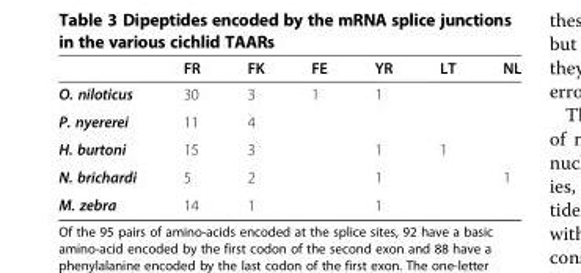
<table><thead><tr><td></td><td>FR</td><td>FK</td><td>FE</td><td>YR</td><td>LT</td><td>NL</td></tr></thead><tbody><tr><td>O. niloticus</td><td>30</td><td>3</td><td>1</td><td>1</td><td></td><td></td></tr><tr><td>P. nyererei</td><td>11</td><td>4</td><td></td><td></td><td></td><td></td></tr><tr><td>H. burtoni</td><td>15</td><td>3</td><td></td><td>1</td><td>1</td><td></td></tr><tr><td>N. brichardi</td><td>5</td><td>2</td><td></td><td>1</td><td></td><td>1</td></tr><tr><td>M. zebra</td><td>14</td><td>1</td><td></td><td>1</td><td></td><td></td></tr></tbody></table>